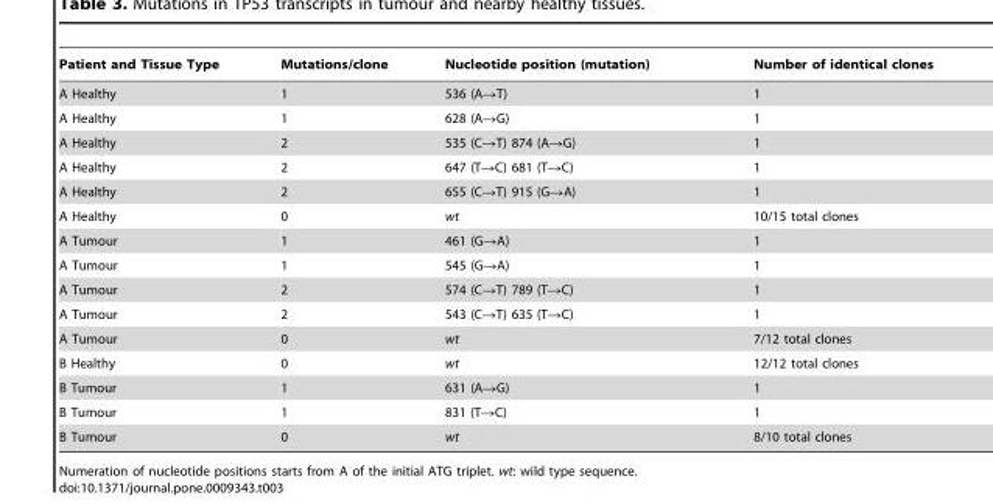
<table><thead><tr><td>Patient and Tissue Type</td><td>Mutations/clone</td><td>Nucleotide position (mutation)</td><td>Number of identical clones</td></tr></thead><tbody><tr><td>A Healthy</td><td>1</td><td>536 (A→T)</td><td>1</td></tr><tr><td>A Healthy</td><td>1</td><td>628 (A→G)</td><td>1</td></tr><tr><td>A Healthy</td><td>2</td><td>535 (C→T) 874 (A→G)</td><td>1</td></tr><tr><td>A Healthy</td><td>2</td><td>647 (T→C) 681 (T→C)</td><td>1</td></tr><tr><td>A Healthy</td><td>2</td><td>655 (C→T) 915 (G→A)</td><td>1</td></tr><tr><td>A Healthy</td><td>0</td><td>wt</td><td>10/15 total clones</td></tr><tr><td>A Tumour</td><td>1</td><td>461 (G→A)</td><td>1</td></tr><tr><td>A Tumour</td><td>1</td><td>545 (G→A)</td><td>1</td></tr><tr><td>A Tumour</td><td>2</td><td>574 (C→T) 789 (T→C)</td><td>1</td></tr><tr><td>A Tumour</td><td>2</td><td>543 (C→T) 635 (T→C)</td><td>1</td></tr><tr><td>A Tumour</td><td>0</td><td>wt</td><td>7/12 total clones</td></tr><tr><td>B Healthy</td><td>0</td><td>wt</td><td>12/12 total clones</td></tr><tr><td>B Tumour</td><td>1</td><td>631 (A→G)</td><td>1</td></tr><tr><td>B Tumour</td><td>1</td><td>831 (T→C)</td><td>1</td></tr><tr><td>B Tumour</td><td>0</td><td>wt</td><td>8/10 total clones</td></tr></tbody></table>